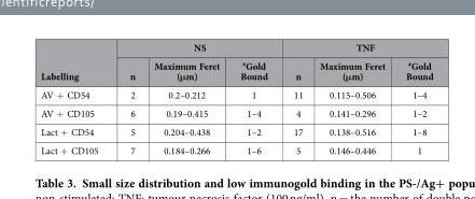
<table><thead><tr><td rowspan="2">Labelling</td><td colspan="3">NS</td><td colspan="3">TNF</td></tr><tr><td>n</td><td>Maximum Feret (μm)</td><td>#Gold Bound</td><td>n</td><td>Maximum Feret (μm)</td><td>#Gold Bound</td></tr></thead><tbody><tr><td>AV + CD54</td><td>2</td><td>0.2–0.212</td><td>1</td><td>11</td><td>0.115–0.506</td><td>1–4</td></tr><tr><td>AV + CD105</td><td>6</td><td>0.19–0.415</td><td>1–4</td><td>4</td><td>0.141–0.296</td><td>1–2</td></tr><tr><td>Lact + CD54</td><td>5</td><td>0.204–0.438</td><td>1–2</td><td>17</td><td>0.138–0.516</td><td>1–8</td></tr><tr><td>Lact + CD105</td><td>7</td><td>0.184–0.266</td><td>1–6</td><td>5</td><td>0.146–0.446</td><td>1</td></tr></tbody></table>